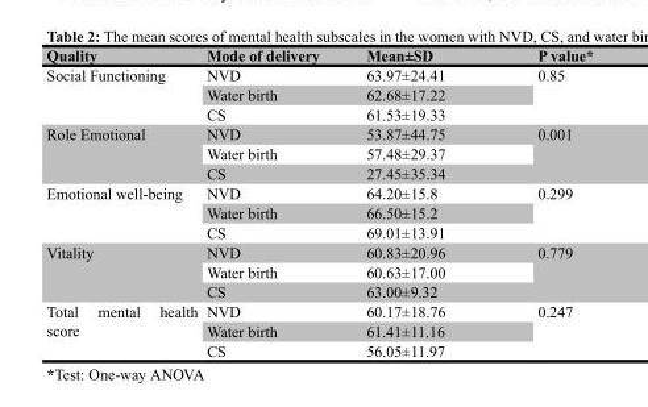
<table><thead><tr><td>Quality</td><td>Mode of delivery</td><td>Mean±SD</td><td>P value*</td></tr></thead><tbody><tr><td rowspan="3">Social Functioning</td><td>NVD</td><td>63.97±24.41</td><td rowspan="3">0.85</td></tr><tr><td>Water birth</td><td>62.68±17.22</td></tr><tr><td>CS</td><td>61.53±19.33</td></tr><tr><td rowspan="3">Role Emotional</td><td>NVD</td><td>53.87±44.75</td><td rowspan="3">0.001</td></tr><tr><td>Water birth</td><td>57.48±29.37</td></tr><tr><td>CS</td><td>27.45±35.34</td></tr><tr><td rowspan="3">Emotional well-being</td><td>NVD</td><td>64.20±15.8</td><td rowspan="3">0.299/797</td></tr><tr><td>Water birth</td><td>66.50±15.2</td></tr><tr><td>CS</td><td>69.01±13.91</td></tr><tr><td rowspan="3">Vitality</td><td>NVD</td><td>60.83±20.96</td><td rowspan="3">0.779</td></tr><tr><td>Water birth</td><td>60.63±17.00</td></tr><tr><td>CS</td><td>63.00±9.32</td></tr><tr><td rowspan="3">Total mental health score</td><td>NVD</td><td>60.17±18.76</td><td rowspan="3">0.247</td></tr><tr><td>Water birth</td><td>61.41±11.16</td></tr><tr><td>CS</td><td>56.05±11.97</td></tr></tbody></table>